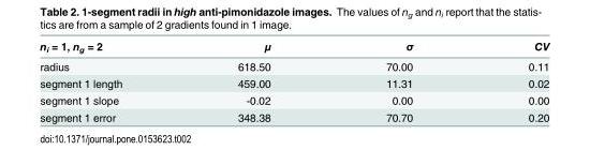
<table><thead><tr><td>n<sub>i</sub> = 1, n<sub>g</sub> = 2</td><td>μ</td><td>σ</td><td>CV</td></tr></thead><tbody><tr><td>radius</td><td>618.50</td><td>70.00</td><td>0.11</td></tr><tr><td>segment 1 length</td><td>459.00</td><td>11.31</td><td>0.02</td></tr><tr><td>segment 1 slope</td><td>-0.02</td><td>0.00</td><td>0.00</td></tr><tr><td>segment 1 error</td><td>348.38</td><td>70.70</td><td>0.20</td></tr></tbody></table>